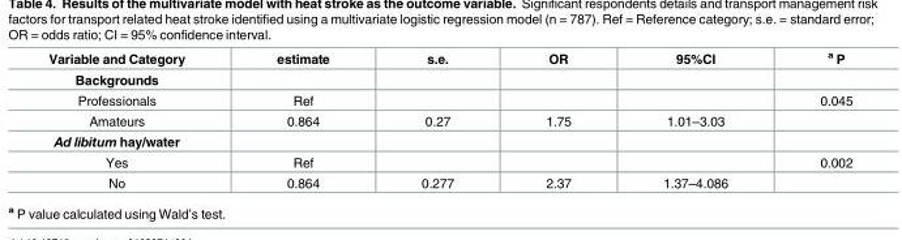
<table><thead><tr><td>Variable and Category</td><td>estimate</td><td>s.e.</td><td>OR</td><td>95%CI</td><td><sup>a</sup> P</td></tr></thead><tbody><tr><td colspan="6">Backgrounds</td></tr><tr><td>Professionals</td><td>Ref</td><td></td><td></td><td></td><td>0.045</td></tr><tr><td>Amateurs</td><td>0.864</td><td>0.27</td><td>1.75</td><td>1.01–3.03</td><td></td></tr><tr><td colspan="6">Ad libitum hay/water</td></tr><tr><td>Yes</td><td>Ref</td><td></td><td></td><td></td><td>0.002</td></tr><tr><td>No</td><td>0.864</td><td>0.277</td><td>2.37</td><td>1.37–4.086</td><td></td></tr></tbody></table>